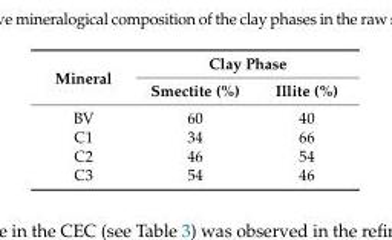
<table><thead><tr><td rowspan="2">Mineral</td><td colspan="2">Clay Phase</td></tr><tr><td>Smectite (%)</td><td>Illite (%)</td></tr></thead><tbody><tr><td>BV</td><td>60</td><td>40</td></tr><tr><td>C1</td><td>34</td><td>66</td></tr><tr><td>C2</td><td>46</td><td>54</td></tr><tr><td>C3</td><td>54</td><td>46</td></tr></tbody></table>